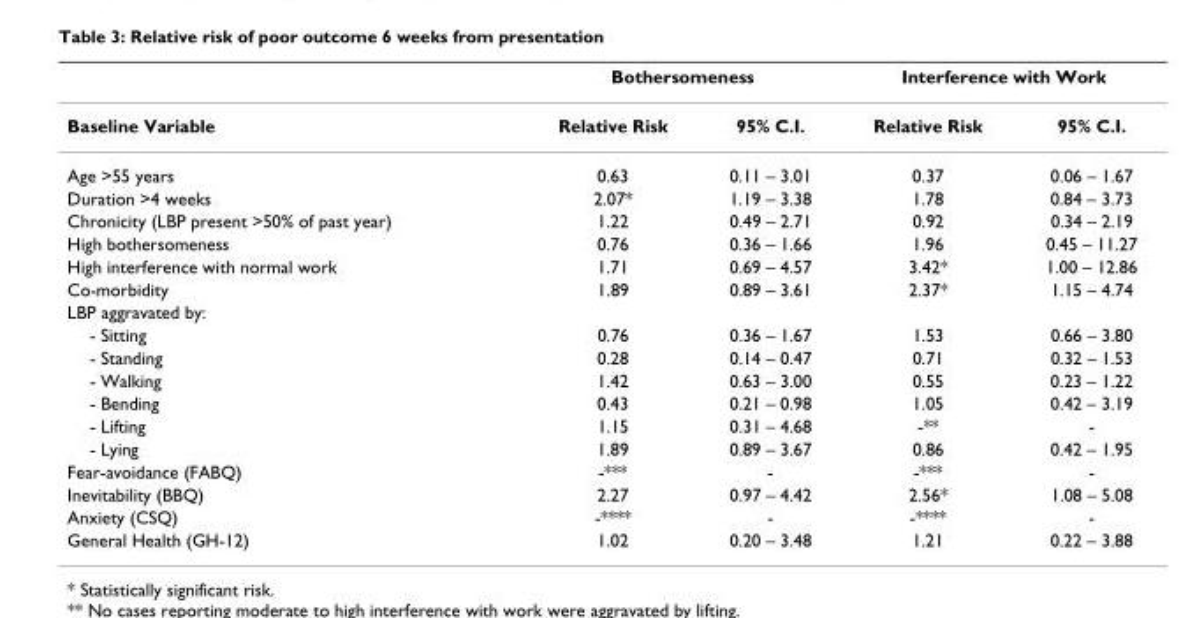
<table><thead><tr><td rowspan="2">Baseline Variable</td><td colspan="2">Bothersomeness</td><td colspan="2">Interference with Work</td></tr><tr><td>Relative Risk</td><td>95% C.I.</td><td>Relative Risk</td><td>95% C.I.</td></tr></thead><tbody><tr><td>Age &gt;55 years</td><td>0.63</td><td>0.11 – 3.01</td><td>0.37</td><td>0.06 – 1.67</td></tr><tr><td>Duration &gt;4 weeks</td><td>2.07*</td><td>1.19 – 3.38</td><td>1.78</td><td>0.84 – 3.73</td></tr><tr><td>Chronicity (LBP present &gt;50% of past year)</td><td>1.22</td><td>0.49 – 2.71</td><td>0.92</td><td>0.34 – 2.19</td></tr><tr><td>High bothersomeness</td><td>0.76</td><td>0.36 – 1.66</td><td>1.96</td><td>0.45 – 11.27</td></tr><tr><td>High interference with normal work</td><td>1.71</td><td>0.69 – 4.57</td><td>3.42*</td><td>1.00 – 12.86</td></tr><tr><td>Co-morbidity</td><td>1.89</td><td>0.89 – 3.61</td><td>2.37*</td><td>1.15 – 4.74</td></tr><tr><td colspan="5">LBP aggravated by:</td></tr><tr><td>- Sitting</td><td>0.76</td><td>0.36 – 1.67</td><td>1.53</td><td>0.66 – 3.80</td></tr><tr><td>- Standing</td><td>0.28</td><td>0.14 – 0.47</td><td>0.71</td><td>0.32 – 1.53</td></tr><tr><td>- Walking</td><td>1.42</td><td>0.63 – 3.00</td><td>0.55</td><td>0.23 – 1.22</td></tr><tr><td>- Bending</td><td>0.43</td><td>0.21 – 0.98</td><td>1.05</td><td>0.42 – 3.19</td></tr><tr><td>- Lifting</td><td>1.15</td><td>0.31 – 4.68</td><td>-**</td><td>-</td></tr><tr><td>- Lying</td><td>1.89</td><td>0.89 – 3.67</td><td>0.86</td><td>0.42 – 1.95</td></tr><tr><td>Fear-avoidance (FABQ)</td><td>-***</td><td>-</td><td>-***</td><td>-</td></tr><tr><td>Inevitability (BBQ)</td><td>2.27</td><td>0.97 – 4.42</td><td>2.56*</td><td>1.08 – 5.08</td></tr><tr><td>Anxiety (CSQ)</td><td>-****</td><td>-</td><td>-****</td><td>-</td></tr><tr><td>General Health (GH-12)</td><td>1.02</td><td>0.20 – 3.48</td><td>1.21</td><td>0.22 – 3.88</td></tr></tbody></table>